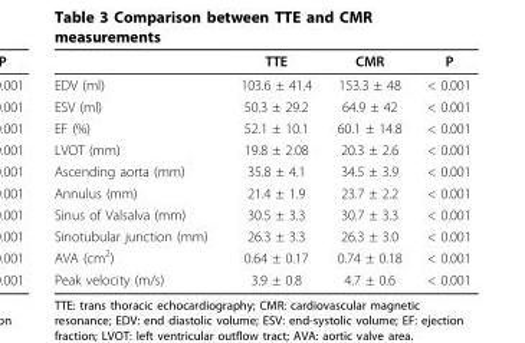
<table><thead><tr><td></td><td>TTE</td><td>CMR</td><td>P</td></tr></thead><tbody><tr><td>EDV (ml)</td><td>103.6 ± 41.4</td><td>153.3 ± 48</td><td>&lt; 0.001</td></tr><tr><td>ESV (ml)</td><td>50.3 ± 29.2</td><td>64.9 ± 42</td><td>&lt; 0.001</td></tr><tr><td>EF (%)</td><td>52.1 ± 10.1</td><td>60.1 ± 14.8</td><td>&lt; 0.001</td></tr><tr><td>LVOT (mm)</td><td>19.8 ± 2.08</td><td>20.3 ± 2.6</td><td>&lt; 0.001</td></tr><tr><td>Ascending aorta (mm)</td><td>35.8 ± 4.1</td><td>34.5 ± 3.9</td><td>&lt; 0.001</td></tr><tr><td>Annulus (mm)</td><td>21.4 ± 1.9</td><td>23.7 ± 2.2</td><td>&lt; 0.001</td></tr><tr><td>Sinus of Valsalva (mm)</td><td>30.5 ± 3.3</td><td>30.7 ± 3.3</td><td>&lt; 0.001</td></tr><tr><td>Sinotubular junction (mm)</td><td>26.3 ± 3.3</td><td>26.3 ± 3.0</td><td>&lt; 0.001</td></tr><tr><td>AVA (cm<sup>2</sup>)</td><td>0.64 ± 0.17</td><td>0.74 ± 0.18</td><td>&lt; 0.001</td></tr><tr><td>Peak velocity (m/s)</td><td>3.9 ± 0.8</td><td>4.7 ± 0.6</td><td>&lt; 0.001</td></tr></tbody></table>